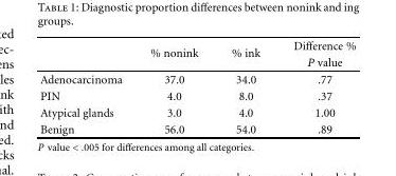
<table><thead><tr><td rowspan="2"></td><td rowspan="2">% nonink</td><td rowspan="2">% ink</td><td rowspan="2">Difference % P value</td></tr><tr></tr></thead><tbody><tr><td>Adenocarcinoma</td><td>37.0</td><td>34.0</td><td>.77</td></tr><tr><td>PIN</td><td>4.0</td><td>8.0</td><td>.37</td></tr><tr><td>Atypical glands</td><td>3.0</td><td>4.0</td><td>1.00</td></tr><tr><td>Benign</td><td>56.0</td><td>54.0</td><td>.89</td></tr></tbody></table>